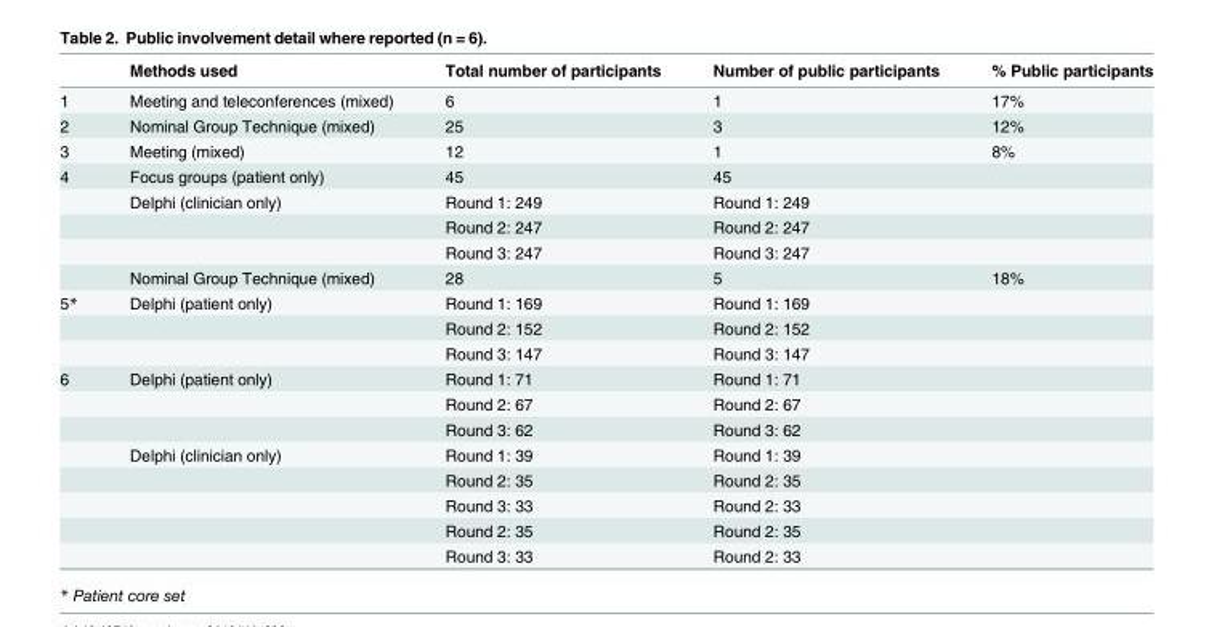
<table><thead><tr><td></td><td>Methods used</td><td>Total number of participants</td><td>Number of public participants</td><td>% Public participants</td></tr></thead><tbody><tr><td>1</td><td>Meeting and teleconferences (mixed)</td><td>6</td><td>1</td><td>17%</td></tr><tr><td>2</td><td>Nominal Group Technique (mixed)</td><td>25</td><td>3</td><td>12%</td></tr><tr><td>3</td><td>Meeting (mixed)</td><td>12</td><td>1</td><td>8%</td></tr><tr><td rowspan="5">4</td><td>Focus groups (patient only)</td><td>45</td><td>45</td><td></td></tr><tr><td>Delphi (clinician only)</td><td>Round 1: 249</td><td>Round 1: 249</td><td></td></tr><tr><td></td><td>Round 2: 247</td><td>Round 2: 247</td><td></td></tr><tr><td></td><td>Round 3: 247</td><td>Round 3: 247</td><td></td></tr><tr><td>Nominal Group Technique (mixed)</td><td>28</td><td>5</td><td>18%</td></tr><tr><td rowspan="3">5*</td><td>Delphi (patient only)</td><td>Round 1: 169</td><td>Round 1: 169</td><td></td></tr><tr><td></td><td>Round 2: 152</td><td>Round 2: 152</td><td></td></tr><tr><td></td><td>Round 3: 147</td><td>Round 3: 147</td><td></td></tr><tr><td rowspan="8">6</td><td>Delphi (patient only)</td><td>Round 1: 71</td><td>Round 1: 71</td><td></td></tr><tr><td></td><td>Round 2: 67</td><td>Round 2: 67</td><td></td></tr><tr><td></td><td>Round 3: 62</td><td>Round 3: 62</td><td></td></tr><tr><td>Delphi (clinician only)</td><td>Round 1: 39</td><td>Round 1: 39</td><td></td></tr><tr><td></td><td>Round 2: 35</td><td>Round 2: 35</td><td></td></tr><tr><td></td><td>Round 3: 33</td><td>Round 2: 33</td><td></td></tr><tr><td></td><td>Round 2: 35</td><td>Round 2: 35</td><td></td></tr><tr><td></td><td>Round 3: 33</td><td>Round 2: 33</td><td></td></tr></tbody></table>